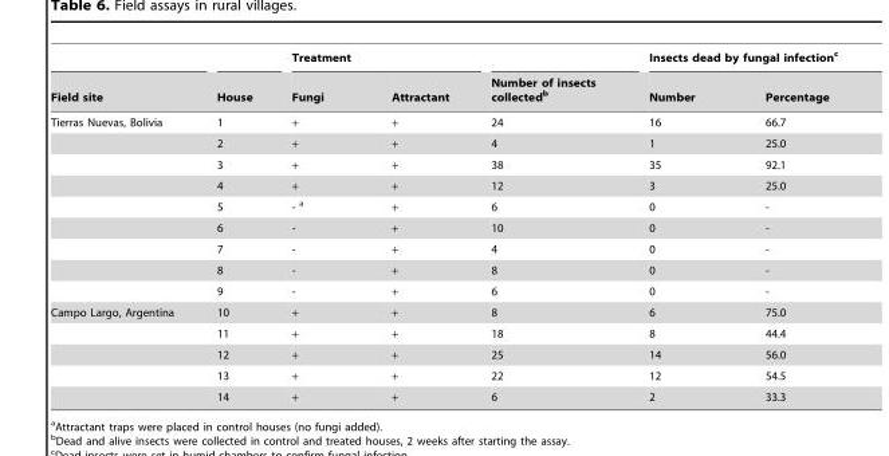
<table><thead><tr><td rowspan="2">Field site</td><td rowspan="2">House</td><td colspan="2">Treatment</td><td rowspan="2">Number of insects collected<sup>b</sup></td><td colspan="2">Insects dead by fungal infection<sup>c</sup></td></tr><tr><td>Fungi</td><td>Attractant</td><td>Number</td><td>Percentage</td></tr></thead><tbody><tr><td rowspan="9">Tierras Nuevas, Bolivia</td><td>1</td><td>+</td><td>+</td><td>24</td><td>16</td><td>66.7</td></tr><tr><td>2</td><td>+</td><td>+</td><td>4</td><td>1</td><td>25.0</td></tr><tr><td>3</td><td>+</td><td>+</td><td>38</td><td>35</td><td>92.1</td></tr><tr><td>4</td><td>+</td><td>+</td><td>12</td><td>3</td><td>25.0</td></tr><tr><td>5</td><td>- a</td><td>+</td><td>6</td><td>0</td><td>-</td></tr><tr><td>6</td><td>-</td><td>+</td><td>10</td><td>0</td><td>-</td></tr><tr><td>7</td><td>-</td><td>+</td><td>4</td><td>0</td><td>-</td></tr><tr><td>8</td><td>-</td><td>+</td><td>8</td><td>0</td><td>-</td></tr><tr><td>9</td><td>-</td><td>+</td><td>6</td><td>0</td><td>-</td></tr><tr><td rowspan="5">Campo Largo, Argentina</td><td>10</td><td>+</td><td>+</td><td>8</td><td>6</td><td>75.0</td></tr><tr><td>11</td><td>+</td><td>+</td><td>18</td><td>8</td><td>44.4</td></tr><tr><td>12</td><td>+</td><td>+</td><td>25</td><td>14</td><td>56.0</td></tr><tr><td>13</td><td>+</td><td>+</td><td>22</td><td>12</td><td>54.5</td></tr><tr><td>14</td><td>+</td><td>+</td><td>6</td><td>2</td><td>33.3</td></tr></tbody></table>